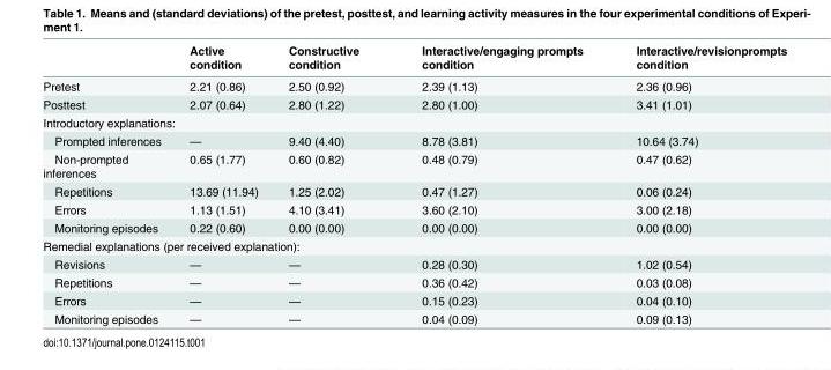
<table><thead><tr><td></td><td>Active condition</td><td>Constructive condition</td><td>Interactive/engaging prompts condition</td><td>Interactive/revisionprompts condition</td></tr></thead><tbody><tr><td>Pretest</td><td>2.21 (0.86)</td><td>2.50 (0.92)</td><td>2.39 (1.13)</td><td>2.36 (0.96)</td></tr><tr><td>Posttest</td><td>2.07 (0.64)</td><td>2.80 (1.22)</td><td>2.80 (1.00)</td><td>3.41 (1.01)</td></tr><tr><td colspan="5">Introductory explanations:</td></tr><tr><td>Prompted inferences</td><td>—</td><td>9.40 (4.40)</td><td>8.78 (3.81)</td><td>10.64 (3.74)</td></tr><tr><td>Non-prompted inferences</td><td>0.65 (1.77)</td><td>0.60 (0.82)</td><td>0.48 (0.79)</td><td>0.47 (0.62)</td></tr><tr><td>Repetitions</td><td>13.69 (11.94)</td><td>1.25 (2.02)</td><td>0.47 (1.27)</td><td>0.06 (0.24)</td></tr><tr><td>Errors</td><td>1.13 (1.51)</td><td>4.10 (3.41)</td><td>3.60 (2.10)</td><td>3.00 (2.18)</td></tr><tr><td>Monitoring episodes</td><td>0.22 (0.60)</td><td>0.00 (0.00)</td><td>0.00 (0.00)</td><td>0.00 (0.00)</td></tr><tr><td colspan="5">Remedial explanations (per received explanation):</td></tr><tr><td>Revisions</td><td>—</td><td>—</td><td>0.28 (0.30)</td><td>1.02 (0.54)</td></tr><tr><td>Repetitions</td><td>—</td><td>—</td><td>0.36 (0.42)</td><td>0.03 (0.08)</td></tr><tr><td>Errors</td><td>—</td><td>—</td><td>0.15 (0.23)</td><td>0.04 (0.10)</td></tr><tr><td>Monitoring episodes</td><td>—</td><td>—</td><td>0.04 (0.09)</td><td>0.09 (0.13)</td></tr></tbody></table>